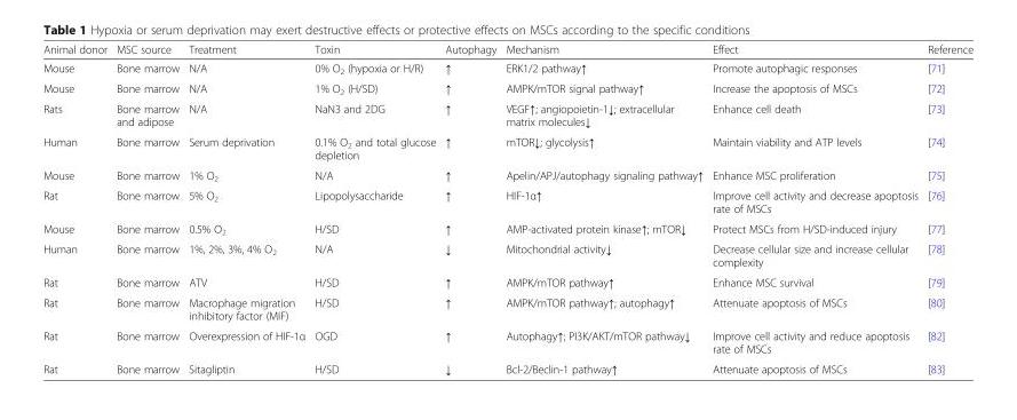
<table><thead><tr><td>Animal donor</td><td>MSC source</td><td>Treatment</td><td>Toxin</td><td>Autophagy</td><td>Mechanism</td><td>Effect</td><td>Reference</td></tr></thead><tbody><tr><td>Mouse</td><td>Bone marrow</td><td>N/A</td><td>0% O<sub>2</sub> (hypoxia or H/R)</td><td>↑</td><td>ERK1/2 pathway↑</td><td>Promote autophagic responses</td><td>[71]</td></tr><tr><td>Mouse</td><td>Bone marrow</td><td>N/A</td><td>1% O<sub>2</sub> (H/SD)</td><td>↑</td><td>AMPK/mTOR signal pathway↑</td><td>Increase the apoptosis of MSCs</td><td>[72]</td></tr><tr><td>Rats</td><td>Bone marrow and adipose</td><td>N/A</td><td>NaN3 and 2DG</td><td>↑</td><td>VEGF↑; angiopoietin-1↓; extracellular matrix molecules↓</td><td>Enhance cell death</td><td>[73]</td></tr><tr><td>Human</td><td>Bone marrow</td><td>Serum deprivation</td><td>0.1% O<sub>2</sub> and total glucose depletion</td><td>↑</td><td>mTOR↓; glycolysis↑</td><td>Maintain viability and ATP levels</td><td>[74]</td></tr><tr><td>Mouse</td><td>Bone marrow</td><td>1% O<sub>2</sub></td><td>N/A</td><td>↑</td><td>Apelin/APJ/autophagy signaling pathway↑</td><td>Enhance MSC proliferation</td><td>[75]</td></tr><tr><td>Rat</td><td>Bone marrow</td><td>5% O<sub>2</sub></td><td>Lipopolysaccharide</td><td>↑</td><td>HIF-1α↑</td><td>Improve cell activity and decrease apoptosis rate of MSCs</td><td>[76]</td></tr><tr><td>Mouse</td><td>Bone marrow</td><td>0.5% O<sub>2</sub></td><td>H/SD</td><td>↑</td><td>AMP-activated protein kinase↑; mTOR↓</td><td>Protect MSCs from H/SD-induced injury</td><td>[77]</td></tr><tr><td>Human</td><td>Bone marrow</td><td>1%, 2%, 3%, 4% O<sub>2</sub></td><td>N/A</td><td>↓</td><td>Mitochondrial activity↓</td><td>Decrease cellular size and increase cellular complexity</td><td>[78]</td></tr><tr><td>Rat</td><td>Bone marrow</td><td>ATV</td><td>H/SD</td><td>↑</td><td>AMPK/mTOR pathway↑</td><td>Enhance MSC survival</td><td>[79]</td></tr><tr><td>Rat</td><td>Bone marrow</td><td>Macrophage migration inhibitory factor (MIF)</td><td>H/SD</td><td>↑</td><td>AMPK/mTOR pathway↑; autophagy↑</td><td>Attenuate apoptosis of MSCs</td><td>[80]</td></tr><tr><td>Rat</td><td>Bone marrow</td><td>Overexpression of HIF-1α</td><td>OGD</td><td>↑</td><td>Autophagy↑; PI3K/AKT/mTOR pathway↓</td><td>Improve cell activity and reduce apoptosis rate of MSCs</td><td>[82]</td></tr><tr><td>Rat</td><td>Bone marrow</td><td>Sitagliptin</td><td>H/SD</td><td>↓</td><td>Bcl-2/Beclin-1 pathway↑</td><td>Attenuate apoptosis of MSCs</td><td>[83]</td></tr></tbody></table>